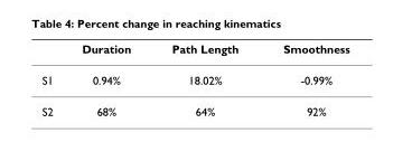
<table><thead><tr><td></td><td>Duration</td><td>Path Length</td><td>Smoothness</td></tr></thead><tbody><tr><td>S1</td><td>0.94%</td><td>18.02%</td><td>-0.99%</td></tr><tr><td>S2</td><td>68%</td><td>64%</td><td>92%</td></tr></tbody></table>